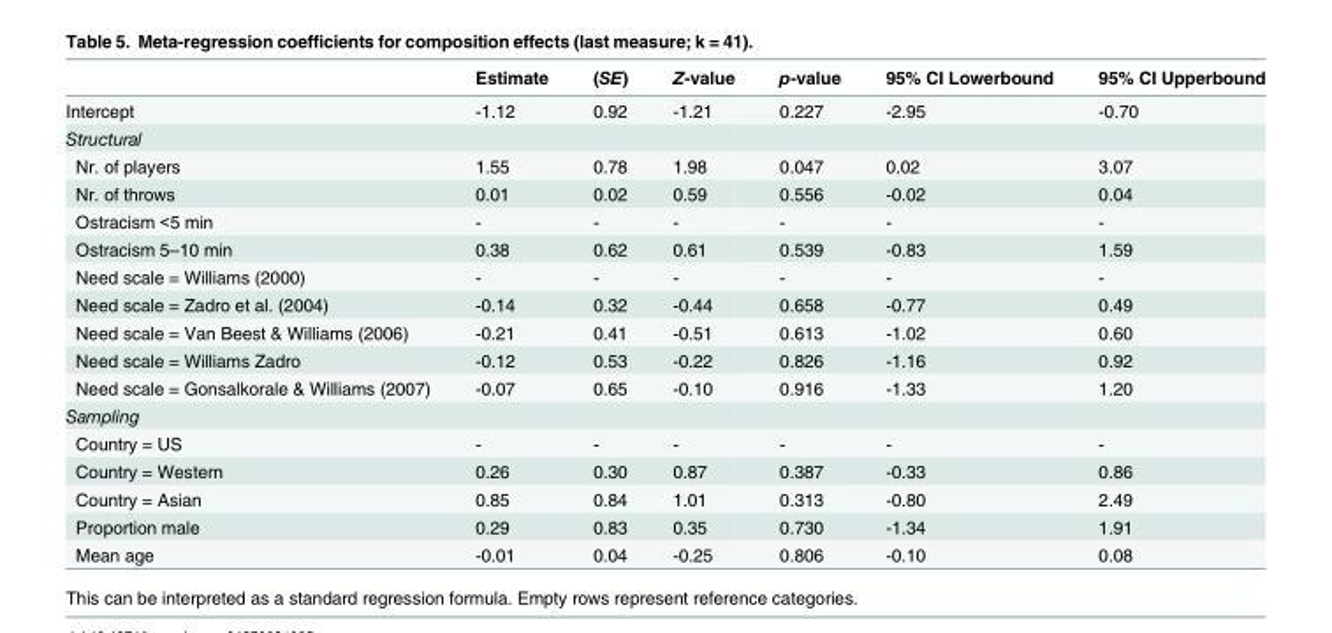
<table><thead><tr><td></td><td>Estimate</td><td>(SE)</td><td>Z-value</td><td>p-value</td><td>95% CI Lowerbound</td><td>95% CI Upperbound</td></tr></thead><tbody><tr><td>Intercept</td><td>-1.12</td><td>0.92</td><td>-1.21</td><td>0.227</td><td>-2.95</td><td>-0.70</td></tr><tr><td colspan="7">Structural</td></tr><tr><td>Nr. of players</td><td>1.55</td><td>0.78</td><td>1.98</td><td>0.047</td><td>0.02</td><td>3.07</td></tr><tr><td>Nr. of throws</td><td>0.01</td><td>0.02</td><td>0.59</td><td>0.556</td><td>-0.02</td><td>0.04</td></tr><tr><td>Ostracism &lt;5 min</td><td>-</td><td>-</td><td>-</td><td>-</td><td>-</td><td>-</td></tr><tr><td>Ostracism 5–10 min</td><td>0.38</td><td>0.62</td><td>0.61</td><td>0.539</td><td>-0.83</td><td>1.59</td></tr><tr><td>Need scale = Williams (2000)</td><td>-</td><td>-</td><td>-</td><td>-</td><td>-</td><td>-</td></tr><tr><td>Need scale = Zadro et al. (2004)</td><td>-0.14</td><td>0.32</td><td>-0.44</td><td>0.658</td><td>-0.77</td><td>0.49</td></tr><tr><td>Need scale = Van Beest &amp; Williams (2006)</td><td>-0.21</td><td>0.41</td><td>-0.51</td><td>0.613</td><td>-1.02</td><td>0.60</td></tr><tr><td>Need scale = Williams Zadro</td><td>-0.12</td><td>0.53</td><td>-0.22</td><td>0.826</td><td>-1.16</td><td>0.92</td></tr><tr><td>Need scale = Gonsalkorale &amp; Williams (2007)</td><td>-0.07</td><td>0.65</td><td>-0.10</td><td>0.916</td><td>-1.33</td><td>1.20</td></tr><tr><td colspan="7">Sampling</td></tr><tr><td>Country = US</td><td>-</td><td>-</td><td>-</td><td>-</td><td>-</td><td>-</td></tr><tr><td>Country = Western</td><td>0.26</td><td>0.30</td><td>0.87</td><td>0.387</td><td>-0.33</td><td>0.86</td></tr><tr><td>Country = Asian</td><td>0.85</td><td>0.84</td><td>1.01</td><td>0.313</td><td>-0.80</td><td>2.49</td></tr><tr><td>Proportion male</td><td>0.29</td><td>0.83</td><td>0.35</td><td>0.730</td><td>-1.34</td><td>1.91</td></tr><tr><td>Mean age</td><td>-0.01</td><td>0.04</td><td>-0.25</td><td>0.806</td><td>-0.10</td><td>0.08</td></tr></tbody></table>